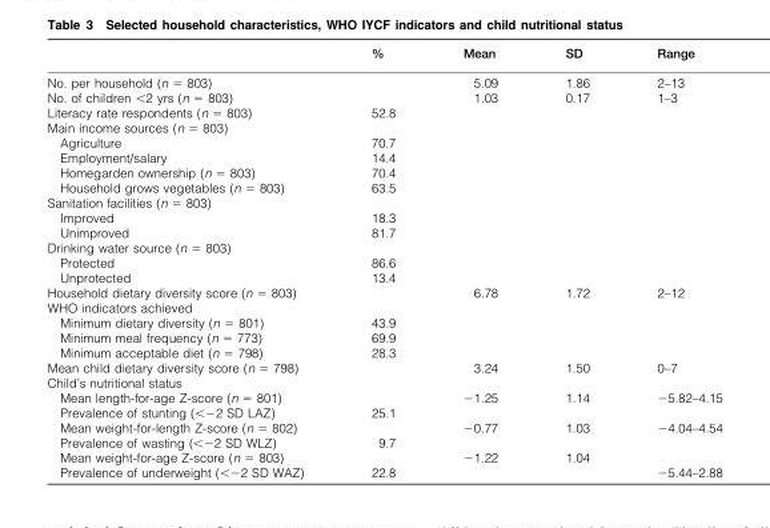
<table><thead><tr><td></td><td>%</td><td>Mean</td><td>SD</td><td>Range</td></tr></thead><tbody><tr><td>No. per household (n = 803)</td><td></td><td>5.09</td><td>1.86</td><td>2–13</td></tr><tr><td>No. of children &lt;2 yrs (n = 803)</td><td></td><td>1.03</td><td>0.17</td><td>1–3</td></tr><tr><td>Literacy rate respondents (n = 803)</td><td>52.8</td><td></td><td></td><td></td></tr><tr><td colspan="5">Main income sources (n = 803)</td></tr><tr><td>Agriculture</td><td>70.7</td><td></td><td></td><td></td></tr><tr><td>Employment/salary</td><td>14.4</td><td></td><td></td><td></td></tr><tr><td>Homegarden ownership (n = 803)</td><td>70.4</td><td></td><td></td><td></td></tr><tr><td>Household grows vegetables (n = 803)</td><td>63.5</td><td></td><td></td><td></td></tr><tr><td colspan="5">Sanitation facilities (n = 803)</td></tr><tr><td>Improved</td><td>18.3</td><td></td><td></td><td></td></tr><tr><td>Unimproved</td><td>81.7</td><td></td><td></td><td></td></tr><tr><td colspan="5">Drinking water source (n = 803)</td></tr><tr><td>Protected</td><td>86.6</td><td></td><td></td><td></td></tr><tr><td>Unprotected</td><td>13.4</td><td></td><td></td><td></td></tr><tr><td>Household dietary diversity score (n = 803)</td><td></td><td>6.78</td><td>1.72</td><td>2–12</td></tr><tr><td colspan="5">WHO indicators achieved</td></tr><tr><td>Minimum dietary diversity (n = 801)</td><td>43.9</td><td></td><td></td><td></td></tr><tr><td>Minimum meal frequency (n = 773)</td><td>69.9</td><td></td><td></td><td></td></tr><tr><td>Minimum acceptable diet (n = 798)</td><td>28.3</td><td></td><td></td><td></td></tr><tr><td>Mean child dietary diversity score (n = 798)</td><td></td><td>3.24</td><td>1.50</td><td>0–7</td></tr><tr><td colspan="5">Child’s nutritional status</td></tr><tr><td>Mean length-for-age Z-score (n = 801)</td><td></td><td>−1.25</td><td>1.14</td><td>−5.82–4.15</td></tr><tr><td>Prevalence of stunting (&lt;−2 SD LAZ)</td><td>25.1</td><td></td><td></td><td></td></tr><tr><td>Mean weight-for-length Z-score (n = 802)</td><td></td><td>−0.77</td><td>1.03</td><td>−4.04–4.54</td></tr><tr><td>Prevalence of wasting (&lt;−2 SD WLZ)</td><td>9.7</td><td></td><td></td><td></td></tr><tr><td>Mean weight-for-age Z-score (n = 803)</td><td></td><td>−1.22</td><td>1.04</td><td></td></tr><tr><td>Prevalence of underweight (&lt;−2 SD WAZ)</td><td>22.8</td><td></td><td></td><td>−5.44–2.88</td></tr></tbody></table>